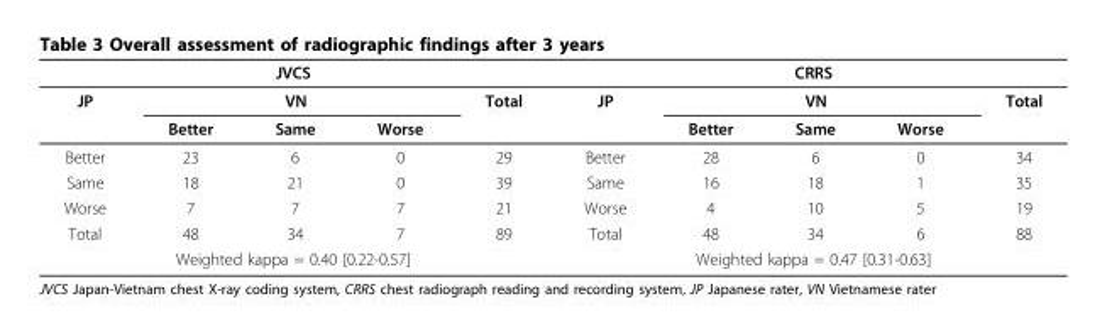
<table><thead><tr><td colspan="5">JVCS</td><td colspan="5">CRRS</td></tr><tr><td rowspan="2">JP</td><td colspan="3">VN</td><td rowspan="2">Total</td><td rowspan="2">JP</td><td colspan="3">VN</td><td rowspan="2">Total</td></tr><tr><td>Better</td><td>Same</td><td>Worse</td><td>Better</td><td>Same</td><td>Worse</td></tr></thead><tbody><tr><td>Better</td><td>23</td><td>6</td><td>0</td><td>29</td><td>Better</td><td>28</td><td>6</td><td>0</td><td>34</td></tr><tr><td>Same</td><td>18</td><td>21</td><td>0</td><td>39</td><td>Same</td><td>16</td><td>18</td><td>1</td><td>35</td></tr><tr><td>Worse</td><td>7</td><td>7</td><td>7</td><td>21</td><td>Worse</td><td>4</td><td>10</td><td>5</td><td>19</td></tr><tr><td>Total</td><td>48</td><td>34</td><td>7</td><td>89</td><td>Total</td><td>48</td><td>34</td><td>6</td><td>88</td></tr><tr><td colspan="5">Weighted kappa = 0.40 [0.22-0.57]</td><td colspan="5">Weighted kappa = 0.47 [0.31-0.63]</td></tr></tbody></table>